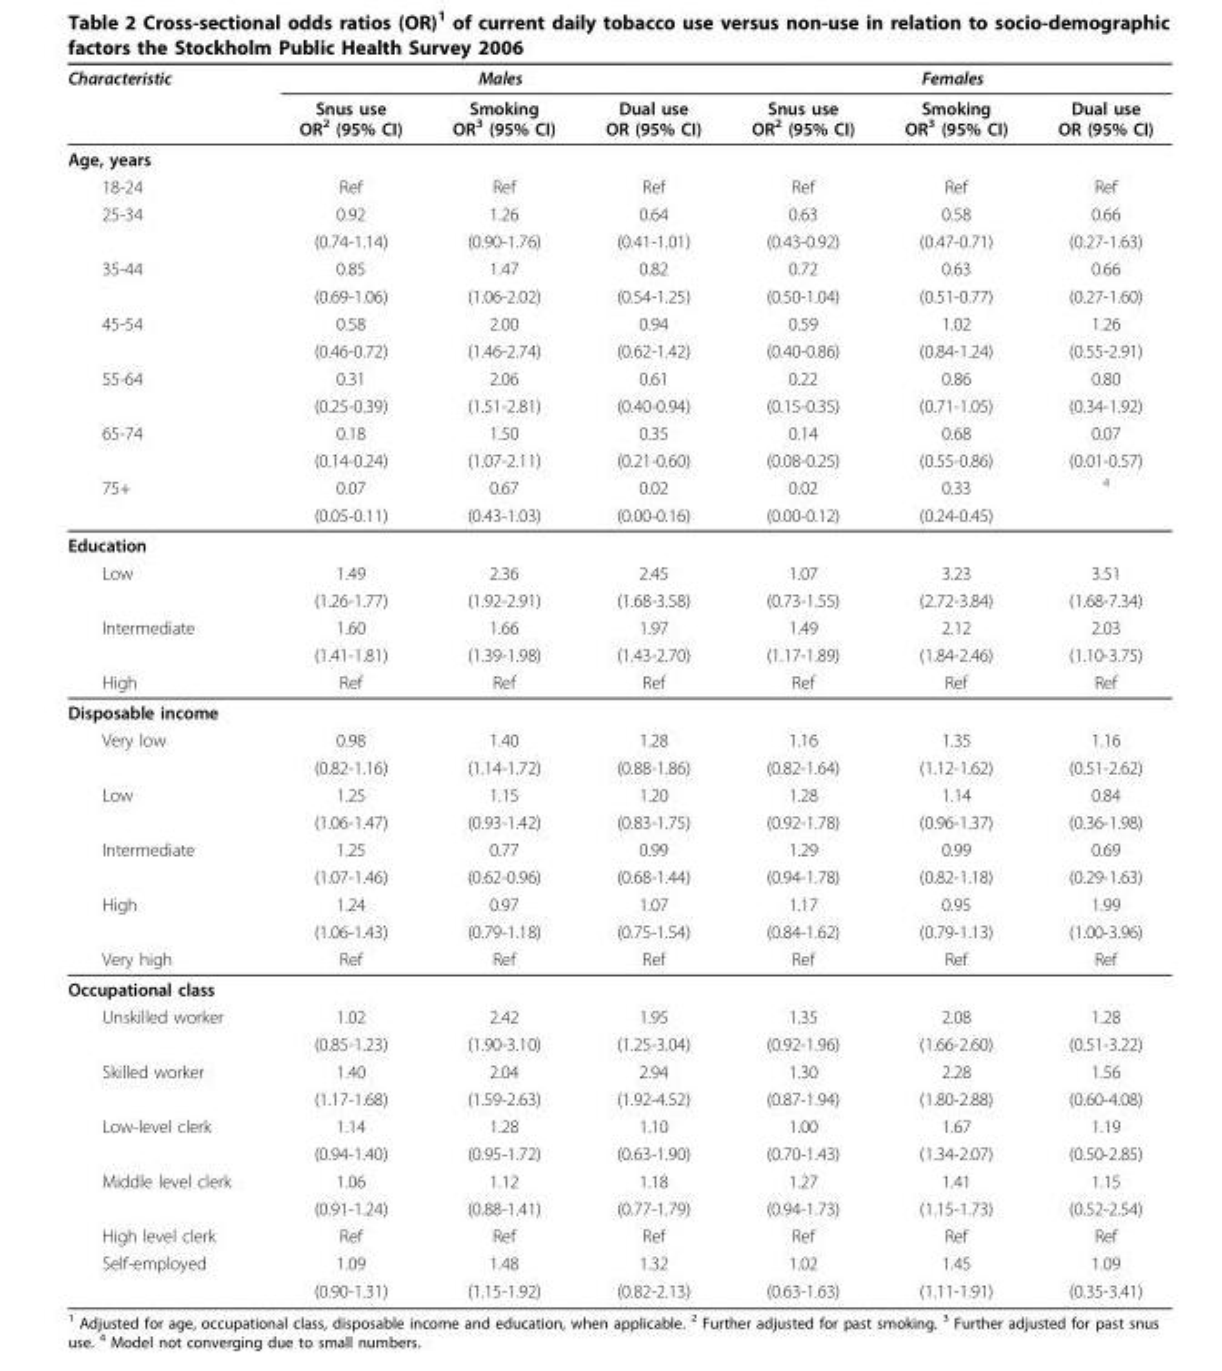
<table><thead><tr><td rowspan="2">Characteristic</td><td colspan="3">Males</td><td colspan="3">Females</td></tr><tr><td>Snus use OR<sup>2</sup> (95% CI)</td><td>Smoking OR<sup>3</sup> (95% CI)</td><td>Dual use OR (95% CI)</td><td>Snus use OR<sup>2</sup> (95% CI)</td><td>Smoking OR<sup>3</sup> (95% CI)</td><td>Dual use OR (95% CI)</td></tr></thead><tbody><tr><td colspan="7">Age, years</td></tr><tr><td>18-24</td><td>Ref</td><td>Ref</td><td>Ref</td><td>Ref</td><td>Ref</td><td>Ref</td></tr><tr><td rowspan="2">25-34</td><td>0.92</td><td>1.26</td><td>0.64</td><td>0.63</td><td>0.58</td><td>0.66</td></tr><tr><td>(0.74-1.14)</td><td>(0.90-1.76)</td><td>(0.41-1.01)</td><td>(0.43-0.92)</td><td>(0.47-0.71)</td><td>(0.27-1.63)</td></tr><tr><td rowspan="2">35-44</td><td>0.85</td><td>1.47</td><td>0.82</td><td>0.72</td><td>0.63</td><td>0.66</td></tr><tr><td>(0.69-1.06)</td><td>(1.06-2.02)</td><td>(0.54-1.25)</td><td>(0.50-1.04)</td><td>(0.51-0.77)</td><td>(0.27-1.60)</td></tr><tr><td rowspan="2">45-54</td><td>0.58</td><td>2.00</td><td>0.94</td><td>0.59</td><td>1.02</td><td>1.26</td></tr><tr><td>(0.46-0.72)</td><td>(1.46-2.74)</td><td>(0.62-1.42)</td><td>(0.40-0.86)</td><td>(0.84-1.24)</td><td>(0.55-2.91)</td></tr><tr><td rowspan="2">55-64</td><td>0.31</td><td>2.06</td><td>0.61</td><td>0.22</td><td>0.86</td><td>0.80</td></tr><tr><td>(0.25-0.39)</td><td>(1.51-2.81)</td><td>(0.40-0.94)</td><td>(0.15-0.35)</td><td>(0.71-1.05)</td><td>(0.34-1.92)</td></tr><tr><td rowspan="2">65-74</td><td>0.18</td><td>1.50</td><td>0.35</td><td>0.14</td><td>0.68</td><td>0.07</td></tr><tr><td>(0.14-0.24)</td><td>(1.07-2.11)</td><td>(0.21-0.60)</td><td>(0.08-0.25)</td><td>(0.55-0.86)</td><td>(0.01-0.57)</td></tr><tr><td rowspan="2">75+</td><td>0.07</td><td>0.67</td><td>0.02</td><td>0.02</td><td>0.33</td><td><sup>4</sup></td></tr><tr><td>(0.05-0.11)</td><td>(0.43-1.03)</td><td>(0.00-0.16)</td><td>(0.00-0.12)</td><td>(0.24-0.45)</td><td></td></tr><tr><td colspan="7">Education</td></tr><tr><td rowspan="2">Low</td><td>1.49</td><td>2.36</td><td>2.45</td><td>1.07</td><td>3.23</td><td>3.51</td></tr><tr><td>(1.26-1.77)</td><td>(1.92-2.91)</td><td>(1.68-3.58)</td><td>(0.73-1.55)</td><td>(2.72-3.84)</td><td>(1.68-7.34)</td></tr><tr><td rowspan="2">Intermediate</td><td>1.60</td><td>1.66</td><td>1.97</td><td>1.49</td><td>2.12</td><td>2.03</td></tr><tr><td>(1.41-1.81)</td><td>(1.39-1.98)</td><td>(1.43-2.70)</td><td>(1.17-1.89)</td><td>(1.84-2.46)</td><td>(1.10-3.75)</td></tr><tr><td>High</td><td>Ref</td><td>Ref</td><td>Ref</td><td>Ref</td><td>Ref</td><td>Ref</td></tr><tr><td colspan="7">Disposable income</td></tr><tr><td rowspan="2">Very low</td><td>0.98</td><td>1.40</td><td>1.28</td><td>1.16</td><td>1.35</td><td>1.16</td></tr><tr><td>(0.82-1.16)</td><td>(1.14-1.72)</td><td>(0.88-1.86)</td><td>(0.82-1.64)</td><td>(1.12-1.62)</td><td>(0.51-2.62)</td></tr><tr><td rowspan="2">Low</td><td>1.25</td><td>1.15</td><td>1.20</td><td>1.28</td><td>1.14</td><td>0.84</td></tr><tr><td>(1.06-1.47)</td><td>(0.93-1.42)</td><td>(0.83-1.75)</td><td>(0.92-1.78)</td><td>(0.96-1.37)</td><td>(0.36-1.98)</td></tr><tr><td rowspan="2">Intermediate</td><td>1.25</td><td>0.77</td><td>0.99</td><td>1.29</td><td>0.99</td><td>0.69</td></tr><tr><td>(1.07-1.46)</td><td>(0.62-0.96)</td><td>(0.68-1.44)</td><td>(0.94-1.78)</td><td>(0.82-1.18)</td><td>(0.29-1.63)</td></tr><tr><td rowspan="2">High</td><td>1.24</td><td>0.97</td><td>1.07</td><td>1.17</td><td>0.95</td><td>1.99</td></tr><tr><td>(1.06-1.43)</td><td>(0.79-1.18)</td><td>(0.75-1.54)</td><td>(0.84-1.62)</td><td>(0.79-1.13)</td><td>(1.00-3.96)</td></tr><tr><td>Very high</td><td>Ref</td><td>Ref</td><td>Ref</td><td>Ref</td><td>Ref</td><td>Ref</td></tr><tr><td colspan="7">Occupational class</td></tr><tr><td rowspan="2">Unskilled worker</td><td>1.02</td><td>2.42</td><td>1.95</td><td>1.35</td><td>2.08</td><td>1.28</td></tr><tr><td>(0.85-1.23)</td><td>(1.90-3.10)</td><td>(1.25-3.04)</td><td>(0.92-1.96)</td><td>(1.66-2.60)</td><td>(0.51-3.22)</td></tr><tr><td rowspan="2">Skilled worker</td><td>1.40</td><td>2.04</td><td>2.94</td><td>1.30</td><td>2.28</td><td>1.56</td></tr><tr><td>(1.17-1.68)</td><td>(1.59-2.63)</td><td>(1.92-4.52)</td><td>(0.87-1.94)</td><td>(1.80-2.88)</td><td>(0.60-4.08)</td></tr><tr><td rowspan="2">Low-level clerk</td><td>1.14</td><td>1.28</td><td>1.10</td><td>1.00</td><td>1.67</td><td>1.19</td></tr><tr><td>(0.94-1.40)</td><td>(0.95-1.72)</td><td>(0.63-1.90)</td><td>(0.70-1.43)</td><td>(1.34-2.07)</td><td>(0.50-2.85)</td></tr><tr><td rowspan="2">Middle level clerk</td><td>1.06</td><td>1.12</td><td>1.18</td><td>1.27</td><td>1.41</td><td>1.15</td></tr><tr><td>(0.91-1.24)</td><td>(0.88-1.41)</td><td>(0.77-1.79)</td><td>(0.94-1.73)</td><td>(1.15-1.73)</td><td>(0.52-2.54)</td></tr><tr><td>High level clerk</td><td>Ref</td><td>Ref</td><td>Ref</td><td>Ref</td><td>Ref</td><td>Ref</td></tr><tr><td rowspan="2">Self-employed</td><td>1.09</td><td>1.48</td><td>1.32</td><td>1.02</td><td>1.45</td><td>1.09</td></tr><tr><td>(0.90-1.31)</td><td>(1.15-1.92)</td><td>(0.82-2.13)</td><td>(0.63-1.63)</td><td>(1.11-1.91)</td><td>(0.35-3.41)</td></tr></tbody></table>